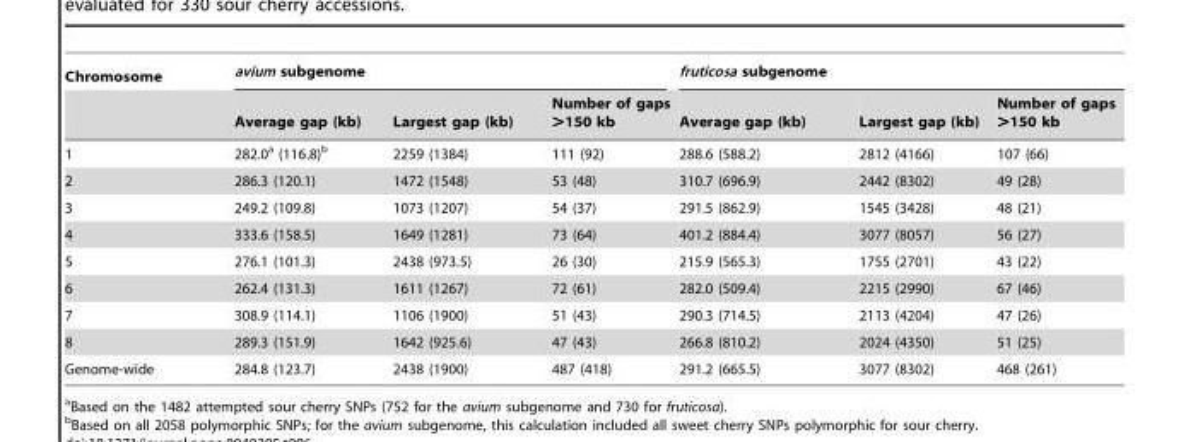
<table><thead><tr><td rowspan="2">Chromosome</td><td colspan="3">avium subgenome</td><td colspan="3">fruticosa subgenome</td></tr><tr><td>Average gap (kb)</td><td>Largest gap (kb)</td><td>Number of gaps &gt;150 kb</td><td>Average gap (kb)</td><td>Largest gap (kb)</td><td>Number of gaps &gt;150 kb</td></tr></thead><tbody><tr><td>1</td><td>282.0<sup>a</sup> (116.8)<sup>b</sup></td><td>2259 (1384)</td><td>111 (92)</td><td>288.6 (588.2)</td><td>2812 (4166)</td><td>107 (66)</td></tr><tr><td>2</td><td>286.3 (120.1)</td><td>1472 (1548)</td><td>53 (48)</td><td>310.7 (696.9)</td><td>2442 (8302)</td><td>49 (28)</td></tr><tr><td>3</td><td>249.2 (109.8)</td><td>1073 (1207)</td><td>54 (37)</td><td>291.5 (862.9)</td><td>1545 (3428)</td><td>48 (21)</td></tr><tr><td>4</td><td>333.6 (158.5)</td><td>1649 (1281)</td><td>73 (64)</td><td>401.2 (884.4)</td><td>3077 (8057)</td><td>56 (27)</td></tr><tr><td>5</td><td>276.1 (101.3)</td><td>2438 (973.5)</td><td>26 (30)</td><td>215.9 (565.3)</td><td>1755 (2701)</td><td>43 (22)</td></tr><tr><td>6</td><td>262.4 (131.3)</td><td>1611 (1267)</td><td>72 (61)</td><td>282.0 (509.4)</td><td>2215 (2990)</td><td>67 (46)</td></tr><tr><td>7</td><td>308.9 (114.1)</td><td>1106 (1900)</td><td>51 (43)</td><td>290.3 (714.5)</td><td>2113 (4204)</td><td>47 (26)</td></tr><tr><td>8</td><td>289.3 (151.9)</td><td>1642 (925.6)</td><td>47 (43)</td><td>266.8 (810.2)</td><td>2024 (4350)</td><td>51 (25)</td></tr><tr><td>Genome-wide</td><td>284.8 (123.7)</td><td>2438 (1900)</td><td>487 (418)</td><td>291.2 (665.5)</td><td>3077 (8302)</td><td>468 (261)</td></tr></tbody></table>